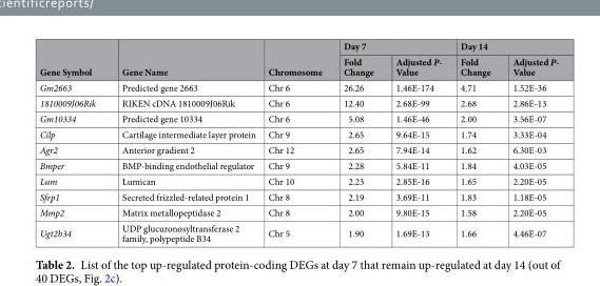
<table><thead><tr><td rowspan="2">Gene Symbol</td><td rowspan="2">Gene Name</td><td rowspan="2">Chromosome</td><td colspan="2">Day 7</td><td colspan="2">Day 14</td></tr><tr><td>Fold Change</td><td>Adjusted P- Value</td><td>Fold Change</td><td>Adjusted P- Value</td></tr></thead><tbody><tr><td>Gm2663</td><td>Predicted gene 2663</td><td>Chr 6</td><td>26.26</td><td>1.46E-174</td><td>4.71</td><td>1.52E-36</td></tr><tr><td>1810009J06Rik</td><td>RIKEN cDNA 1810009J06Rik</td><td>Chr 6</td><td>12.40</td><td>2.68E-99</td><td>2.68</td><td>2.86E-13</td></tr><tr><td>Gm10334</td><td>Predicted gene 10334</td><td>Chr 6</td><td>5.08</td><td>1.46E-46</td><td>2.00</td><td>3.56E-07</td></tr><tr><td>Cilp</td><td>Cartilage intermediate layer protein</td><td>Chr 9</td><td>2.65</td><td>9.64E-15</td><td>1.74</td><td>3.33E-04</td></tr><tr><td>Agr2</td><td>Anterior gradient 2</td><td>Chr 12</td><td>2.65</td><td>7.94E-14</td><td>1.62</td><td>6.30E-03</td></tr><tr><td>Bmper</td><td>BMP-binding endothelial regulator</td><td>Chr 9</td><td>2.28</td><td>5.84E-11</td><td>1.84</td><td>4.03E-05</td></tr><tr><td>Lum</td><td>Lumican</td><td>Chr 10</td><td>2.23</td><td>2.85E-16</td><td>1.65</td><td>2.20E-05</td></tr><tr><td>Sfrp1</td><td>Secreted frizzled-related protein 1</td><td>Chr 8</td><td>2.19</td><td>3.69E-11</td><td>1.83</td><td>1.18E-05</td></tr><tr><td>Mmp2</td><td>Matrix metallopeptidase 2</td><td>Chr 8</td><td>2.00</td><td>9.80E-15</td><td>1.58</td><td>2.20E-05</td></tr><tr><td>Ugt2b34</td><td>UDP glucuronosyltransferase 2 family, polypeptide B34</td><td>Chr 5</td><td>1.90</td><td>1.69E-13</td><td>1.66</td><td>4.46E-07</td></tr></tbody></table>